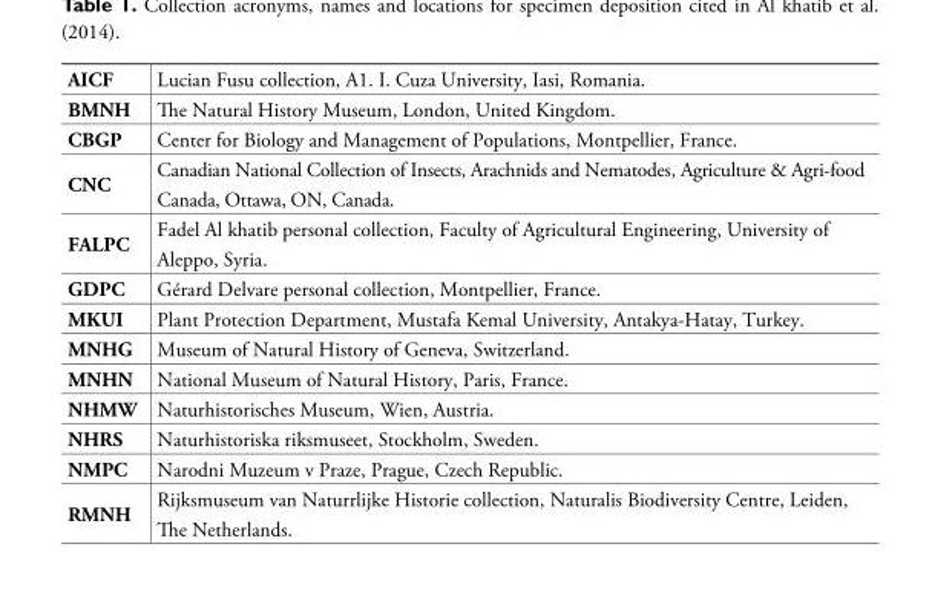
<table><tbody><tr><td>AICF</td><td>Lucian Fusu collection, A1. I. Cuza University, Iasi, Romania.</td></tr><tr><td>BMNH</td><td>The Natural History Museum, London, United Kingdom.</td></tr><tr><td>CBGP</td><td>Center for Biology and Management of Populations, Montpellier, France.</td></tr><tr><td>CNC</td><td>Canadian National Collection of Insects, Arachnids and Nematodes, Agriculture &amp; Agri-food Canada, Ottawa, ON, Canada.</td></tr><tr><td>FALPC</td><td>Fadel Al khatib personal collection, Faculty of Agricultural Engineering, University of Aleppo, Syria.</td></tr><tr><td>GDPC</td><td>Gérard Delvare personal collection, Montpellier, France.</td></tr><tr><td>MKUI</td><td>Plant Protection Department, Mustafa Kemal University, Antakya-Hatay, Turkey.</td></tr><tr><td>MNHG</td><td>Museum of Natural History of Geneva, Switzerland.</td></tr><tr><td>MNHN</td><td>National Museum of Natural History, Paris, France.</td></tr><tr><td>NHMW</td><td>Naturhistorisches Museum, Wien, Austria.</td></tr><tr><td>NHRS</td><td>Naturhistoriska riksmuseet, Stockholm, Sweden.</td></tr><tr><td>NMPC</td><td>Narodni Muzeum v Praze, Prague, Czech Republic.</td></tr><tr><td>RMNH</td><td>Rijksmuseum van Naturrlijke Historie collection, Naturalis Biodiversity Centre, Leiden, The Netherlands.</td></tr></tbody></table>